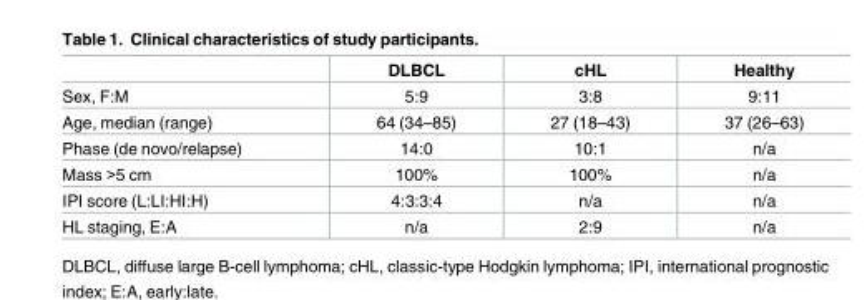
<table><thead><tr><td></td><td>DLBCL</td><td>cHL</td><td>Healthy</td></tr></thead><tbody><tr><td>Sex, F:M</td><td>5:9</td><td>3:8</td><td>9:11</td></tr><tr><td>Age, median (range)</td><td>64 (34–85)</td><td>27 (18–43)</td><td>37 (26–63)</td></tr><tr><td>Phase (de novo/relapse)</td><td>14:0</td><td>10:1</td><td>n/a</td></tr><tr><td>Mass &gt;5 cm</td><td>100%</td><td>100%</td><td>n/a</td></tr><tr><td>IPI score (L:LI:HI:H)</td><td>4:3:3:4</td><td>n/a</td><td>n/a</td></tr><tr><td>HL staging, E:A</td><td>n/a</td><td>2:9</td><td>n/a</td></tr></tbody></table>